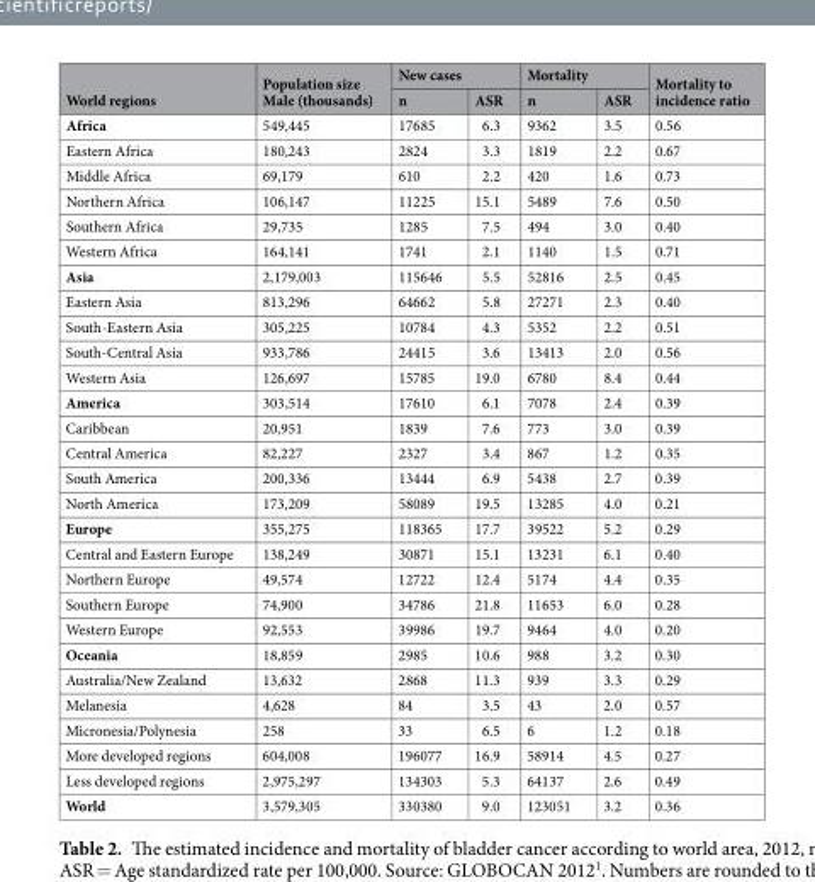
<table><thead><tr><td rowspan="2">World regions</td><td rowspan="2">Population size Male (thousands)</td><td colspan="2">New cases</td><td colspan="2">Mortality</td><td rowspan="2">Mortality to incidence ratio</td></tr><tr><td>n</td><td>ASR</td><td>n</td><td>ASR</td></tr></thead><tbody><tr><td>Africa</td><td>549,445</td><td>17685</td><td>6.3</td><td>9362</td><td>3.5</td><td>0.56</td></tr><tr><td>Eastern Africa</td><td>180,243</td><td>2824</td><td>3.3</td><td>1819</td><td>2.2</td><td>0.67</td></tr><tr><td>Middle Africa</td><td>69,179</td><td>610</td><td>2.2</td><td>420</td><td>1.6</td><td>0.73</td></tr><tr><td>Northern Africa</td><td>106,147</td><td>11225</td><td>15.1</td><td>5489</td><td>7.6</td><td>0.50</td></tr><tr><td>Southern Africa</td><td>29,735</td><td>1285</td><td>7.5</td><td>494</td><td>3.0</td><td>0.40</td></tr><tr><td>Western Africa</td><td>164,141</td><td>1741</td><td>2.1</td><td>1140</td><td>1.5</td><td>0.71</td></tr><tr><td>Asia</td><td>2,179,003</td><td>115646</td><td>5.5</td><td>52816</td><td>2.5</td><td>0.45</td></tr><tr><td>Eastern Asia</td><td>813,296</td><td>64662</td><td>5.8</td><td>27271</td><td>2.3</td><td>0.40</td></tr><tr><td>South-Eastern Asia</td><td>305,225</td><td>10784</td><td>4.3</td><td>5352</td><td>2.2</td><td>0.51</td></tr><tr><td>South-Central Asia</td><td>933,786</td><td>24415</td><td>3.6</td><td>13413</td><td>2.0</td><td>0.56</td></tr><tr><td>Western Asia</td><td>126,697</td><td>15785</td><td>19.0</td><td>6780</td><td>8.4</td><td>0.44</td></tr><tr><td>America</td><td>303,514</td><td>17610</td><td>6.1</td><td>7078</td><td>2.4</td><td>0.39</td></tr><tr><td>Caribbean</td><td>20,951</td><td>1839</td><td>7.6</td><td>773</td><td>3.0</td><td>0.39</td></tr><tr><td>Central America</td><td>82,227</td><td>2327</td><td>3.4</td><td>867</td><td>1.2</td><td>0.35</td></tr><tr><td>South America</td><td>200,336</td><td>13444</td><td>6.9</td><td>5438</td><td>2.7</td><td>0.39</td></tr><tr><td>North America</td><td>173,209</td><td>58089</td><td>19.5</td><td>13285</td><td>4.0</td><td>0.21</td></tr><tr><td>Europe</td><td>355,275</td><td>118365</td><td>17.7</td><td>39522</td><td>5.2</td><td>0.29</td></tr><tr><td>Central and Eastern Europe</td><td>138,249</td><td>30871</td><td>15.1</td><td>13231</td><td>6.1</td><td>0.40</td></tr><tr><td>Northern Europe</td><td>49,574</td><td>12722</td><td>12.4</td><td>5174</td><td>4.4</td><td>0.35</td></tr><tr><td>Southern Europe</td><td>74,900</td><td>34786</td><td>21.8</td><td>11653</td><td>6.0</td><td>0.28</td></tr><tr><td>Western Europe</td><td>92,553</td><td>39986</td><td>19.7</td><td>9464</td><td>4.0</td><td>0.20</td></tr><tr><td>Oceania</td><td>18,859</td><td>2985</td><td>10.6</td><td>988</td><td>3.2</td><td>0.30</td></tr><tr><td>Australia/New Zealand</td><td>13,632</td><td>2868</td><td>11.3</td><td>939</td><td>3.3</td><td>0.29</td></tr><tr><td>Melanesia</td><td>4,628</td><td>84</td><td>3.5</td><td>43</td><td>2.0</td><td>0.57</td></tr><tr><td>Micronesia/Polynesia</td><td>258</td><td>33</td><td>6.5</td><td>6</td><td>1.2</td><td>0.18</td></tr><tr><td>More developed regions</td><td>604,008</td><td>196077</td><td>16.9</td><td>58914</td><td>4.5</td><td>0.27</td></tr><tr><td>Less developed regions</td><td>2,975,297</td><td>134303</td><td>5.3</td><td>64137</td><td>2.6</td><td>0.49</td></tr><tr><td>World</td><td>3,579,305</td><td>330380</td><td>9.0</td><td>123051</td><td>3.2</td><td>0.36</td></tr></tbody></table>